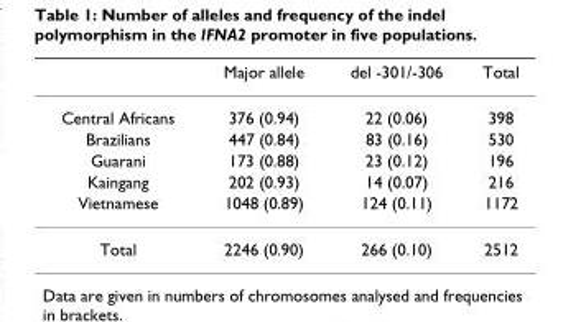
<table><thead><tr><td></td><td>Major allele</td><td>del -301/-306</td><td>Total</td></tr></thead><tbody><tr><td>Central Africans</td><td>376 (0.94)</td><td>22 (0.06)</td><td>398</td></tr><tr><td>Brazilians</td><td>447 (0.84)</td><td>83 (0.16)</td><td>530</td></tr><tr><td>Guarani</td><td>173 (0.88)</td><td>23 (0.12)</td><td>196</td></tr><tr><td>Kaingang</td><td>202 (0.93)</td><td>14 (0.07)</td><td>216</td></tr><tr><td>Vietnamese</td><td>1048 (0.89)</td><td>124 (0.11)</td><td>1172</td></tr><tr><td>Total</td><td>2246 (0.90)</td><td>266 (0.10)</td><td>2512</td></tr></tbody></table>